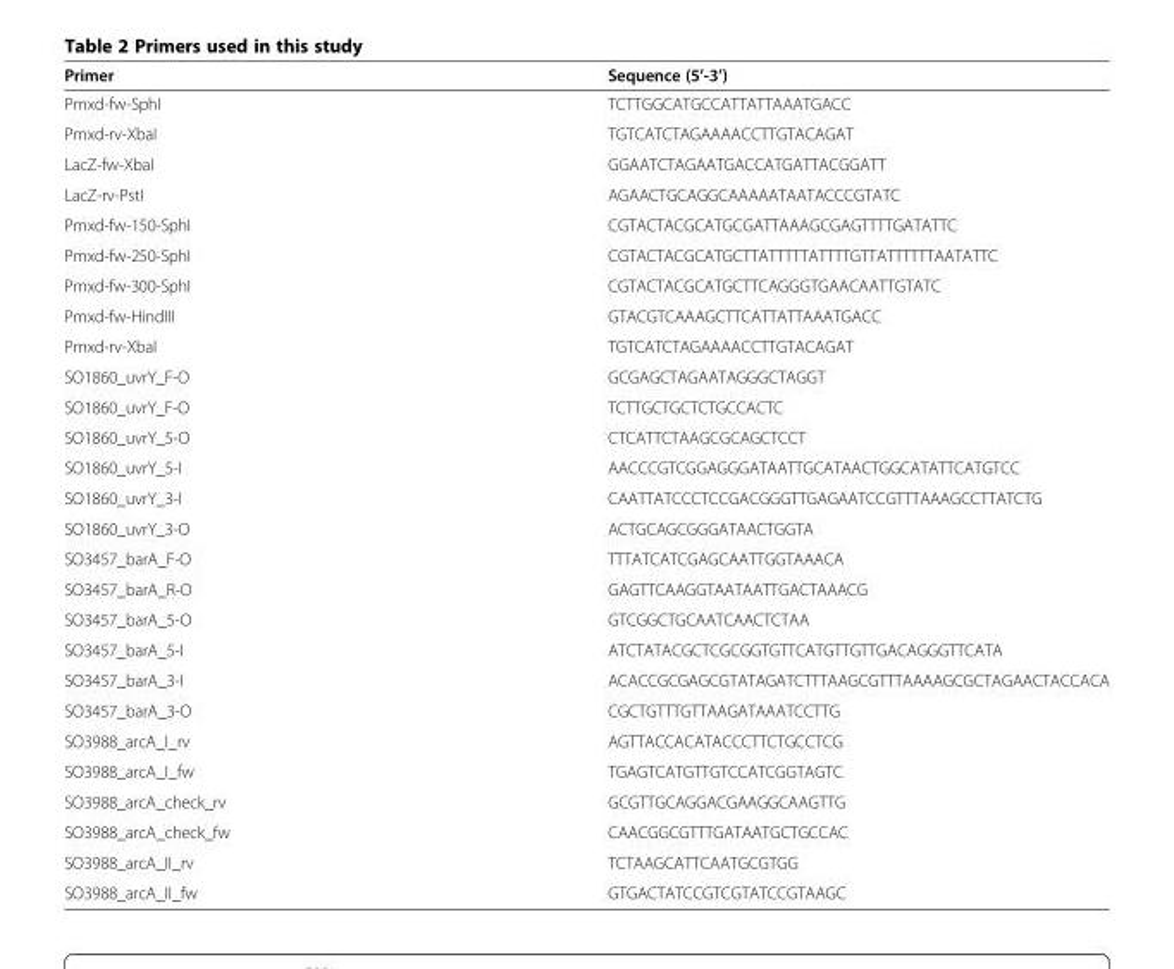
<table><thead><tr><td>Primer</td><td>Sequence (5’-3’)</td></tr></thead><tbody><tr><td>Pmxd-fw-SphI</td><td>TCTTGGCATGCCATTATTAAATGACC</td></tr><tr><td>Pmxd-rv-XbaI</td><td>TGTCATCTAGAAAACCTTGTACAGAT</td></tr><tr><td>LacZ-fw-XbaI</td><td>GGAATCTAGAATGACCATGATTACGGATT</td></tr><tr><td>LacZ-rv-PstI</td><td>AGAACTGCAGGCAAAAATAATACCCGTATC</td></tr><tr><td>Pmxd-fw-150-SphI</td><td>CGTACTACGCATGCGATTAAAGCGAGTTTTGATATTC</td></tr><tr><td>Pmxd-fw-250-SphI</td><td>CGTACTACGCATGCTTATTTTTATTTTGTTATTTTTTAATATTC</td></tr><tr><td>Pmxd-fw-300-SphI</td><td>CGTACTACGCATGCTTCAGGGTGAACAATTGTATC</td></tr><tr><td>Pmxd-fw-HindIII</td><td>GTACGTCAAAGCTTCATTATTAAATGACC</td></tr><tr><td>Pmxd-rv-XbaI</td><td>TGTCATCTAGAAAACCTTGTACAGAT</td></tr><tr><td>SO1860_uvrY_F-O</td><td>GCGAGCTAGAATAGGGCTAGGT</td></tr><tr><td>SO1860_uvrY_F-O</td><td>TCTTGCTGCTCTGCCACTC</td></tr><tr><td>SO1860_uvrY_5-O</td><td>CTCATTCTAAGCGCAGCTCCT</td></tr><tr><td>SO1860_uvrY_5-I</td><td>AACCCGTCGGAGGGATAATTGCATAACTGGCATATTCATGTCC</td></tr><tr><td>SO1860_uvrY_3-I</td><td>CAATTATCCCTCCGACGGGTTGAGAATCCGTTTAAAGCCTTATCTG</td></tr><tr><td>SO1860_uvrY_3-O</td><td>ACTGCAGCGGGATAACTGGTA</td></tr><tr><td>SO3457_barA_F-O</td><td>TTTATCATCGAGCAATTGGTAAACA</td></tr><tr><td>SO3457_barA_R-O</td><td>GAGTTCAAGGTAATAATTGACTAAACG</td></tr><tr><td>SO3457_barA_5-O</td><td>GTCGGCTGCAATCAACTCTAA</td></tr><tr><td>SO3457_barA_5-I</td><td>ATCTATACGCTCGCGGTGTTCATGTTGTTGACAGGGTTCATA</td></tr><tr><td>SO3457_barA_3-I</td><td>ACACCGCGAGCGTATAGATCTTTAAGCGTTTAAAAGCGCTAGAACTACCACA</td></tr><tr><td>SO3457_barA_3-O</td><td>CGCTGTTTGTTAAGATAAATCCTTG</td></tr><tr><td>SO3988_arcA_I_rv</td><td>AGTTACCACATACCCTTCTGCCTCG</td></tr><tr><td>SO3988_arcA_I_fw</td><td>TGAGTCATGTTGTCCATCGGTAGTC</td></tr><tr><td>SO3988_arcA_check_rv</td><td>GCGTTGCAGGACGAAGGCAAGTTG</td></tr><tr><td>SO3988_arcA_check_fw</td><td>CAACGGCGTTTGATAATGCTGCCAC</td></tr><tr><td>SO3988_arcA_II_rv</td><td>TCTAAGCATTCAATGCGTGG</td></tr><tr><td>SO3988_arcA_II_fw</td><td>GTGACTATCCGTCGTATCCGTAAGC</td></tr></tbody></table>